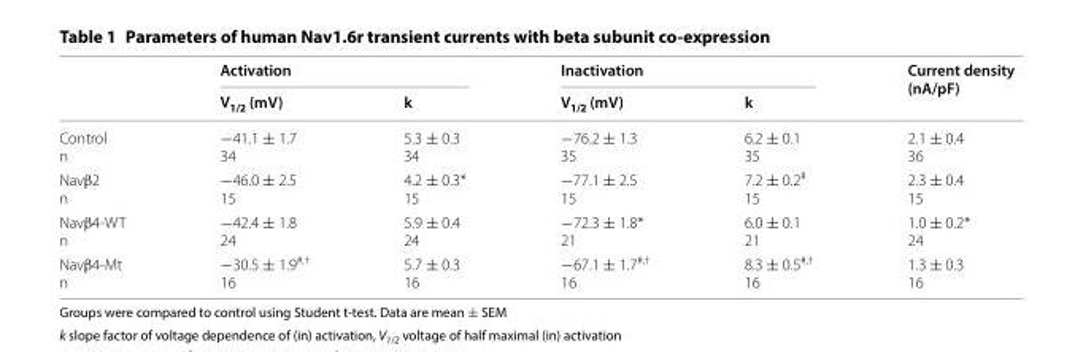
<table><thead><tr><td rowspan="2"></td><td colspan="2">Activation</td><td colspan="2">Inactivation</td><td rowspan="2">Current density (nA/pF)</td></tr><tr><td>V<sub>1/2</sub> (mV)</td><td>k</td><td>V<sub>1/2</sub> (mV)</td><td>k</td></tr></thead><tbody><tr><td>Control n</td><td>−41.1 ± 1.7 34</td><td>5.3 ± 0.3 34</td><td>−76.2 ± 1.3 35</td><td>6.2 ± 0.1 35</td><td>2.1 ± 0.4 36</td></tr><tr><td>Navβ2 n</td><td>−46.0 ± 2.5 15</td><td>4.2 ± 0.3* 15</td><td>−77.1 ± 2.5 15</td><td>7.2 ± 0.2<sup>#</sup> 15</td><td>2.3 ± 0.4 15</td></tr><tr><td>Navβ4‑WT n</td><td>−42.4 ± 1.8 24</td><td>5.9 ± 0.4 24</td><td>−72.3 ± 1.8* 21</td><td>6.0 ± 0.1 21</td><td>1.0 ± 0.2* 24</td></tr><tr><td>Navβ4‑Mt n</td><td>−30.5 ± 1.9<sup>#,†</sup> 16</td><td>5.7 ± 0.3 16</td><td>−67.1 ± 1.7<sup>#,†</sup> 16</td><td>8.3 ± 0.5<sup>#,†</sup> 16</td><td>1.3 ± 0.3 16</td></tr></tbody></table>